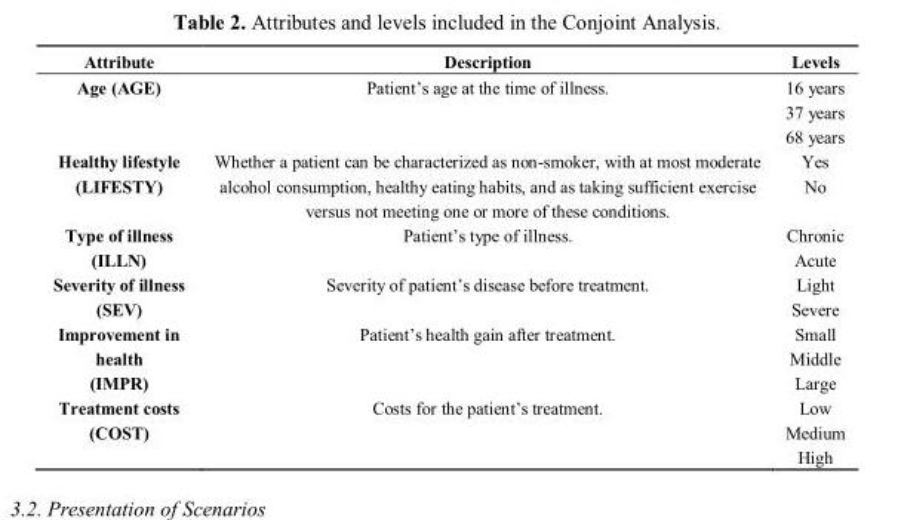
<table><thead><tr><td>Attribute</td><td>Description</td><td>Levels</td></tr></thead><tbody><tr><td rowspan="3">Age (AGE)</td><td rowspan="3">Patient’s age at the time of illness.</td><td>16 years</td></tr><tr><td>37 years</td></tr><tr><td>68 years</td></tr><tr><td rowspan="2">Healthy lifestyle (LIFESTY)</td><td rowspan="2">Whether a patient can be characterized as non-smoker, with at most moderate alcohol consumption, healthy eating habits, and as taking sufficient exercise versus not meeting one or more of these conditions.</td><td>Yes</td></tr><tr><td>No</td></tr><tr><td rowspan="2">Type of illness (ILLN)</td><td rowspan="2">Patient’s type of illness.</td><td>Chronic</td></tr><tr><td>Acute</td></tr><tr><td rowspan="2">Severity of illness (SEV)</td><td rowspan="2">Severity of patient’s disease before treatment.</td><td>Light</td></tr><tr><td>Severe</td></tr><tr><td rowspan="3">Improvement in health (IMPR)</td><td rowspan="3">Patient’s health gain after treatment.</td><td>Small</td></tr><tr><td>Middle</td></tr><tr><td>Large</td></tr><tr><td rowspan="3">Treatment costs (COST)</td><td rowspan="3">Costs for the patient’s treatment.</td><td>Low</td></tr><tr><td>Medium</td></tr><tr><td>High</td></tr></tbody></table>